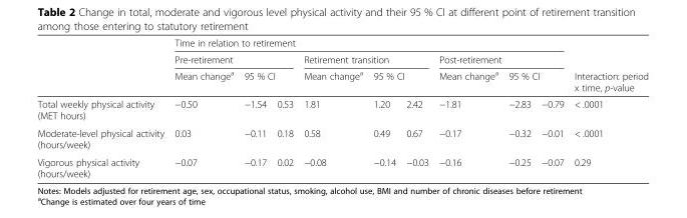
<table><thead><tr><td rowspan="4">Total weekly physical activity (MET hours)</td><td colspan="9">Time in relation to retirement</td><td rowspan="4">Interaction: period x time, p-value &lt; .0001</td></tr><tr><td colspan="3">Pre-retirement</td><td colspan="3">Retirement transition</td><td colspan="3">Post-retirement</td></tr><tr><td rowspan="2">Mean change<sup>a</sup> −0.50</td><td colspan="2">95 % CI</td><td rowspan="2">Mean change<sup>a</sup> 1.81</td><td colspan="2">95 % CI</td><td rowspan="2">Mean change<sup>a</sup> −1.81</td><td colspan="2">95 % CI</td></tr><tr><td>−1.54</td><td>0.53</td><td>1.20</td><td>2.42</td><td>−2.83</td><td>−0.79</td></tr></thead><tbody><tr><td>Moderate-level physical activity (hours/week)</td><td>0.03</td><td>−0.11</td><td>0.18</td><td>0.58</td><td>0.49</td><td>0.67</td><td>−0.17</td><td>−0.32</td><td>−0.01</td><td>&lt; .0001</td></tr><tr><td>Vigorous physical activity (hours/week)</td><td>−0.07</td><td>−0.17</td><td>0.02</td><td>−0.08</td><td>−0.14</td><td>−0.03</td><td>−0.16</td><td>−0.25</td><td>−0.07</td><td>0.29</td></tr></tbody></table>